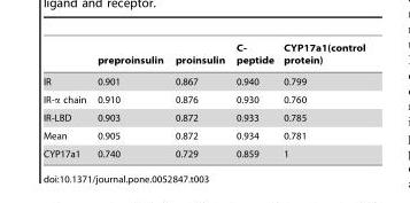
<table><thead><tr><td></td><td>preproinsulin</td><td>proinsulin</td><td>C- peptide</td><td>CYP17a1(control protein)</td></tr></thead><tbody><tr><td>IR</td><td>0.901</td><td>0.867</td><td>0.940</td><td>0.799</td></tr><tr><td>IR-α chain</td><td>0.910</td><td>0.876</td><td>0.930</td><td>0.760</td></tr><tr><td>IR-LBD</td><td>0.903</td><td>0.872</td><td>0.933</td><td>0.785</td></tr><tr><td>Mean</td><td>0.905</td><td>0.872</td><td>0.934</td><td>0.781</td></tr><tr><td>CYP17a1</td><td>0.740</td><td>0.729</td><td>0.859</td><td>1</td></tr></tbody></table>